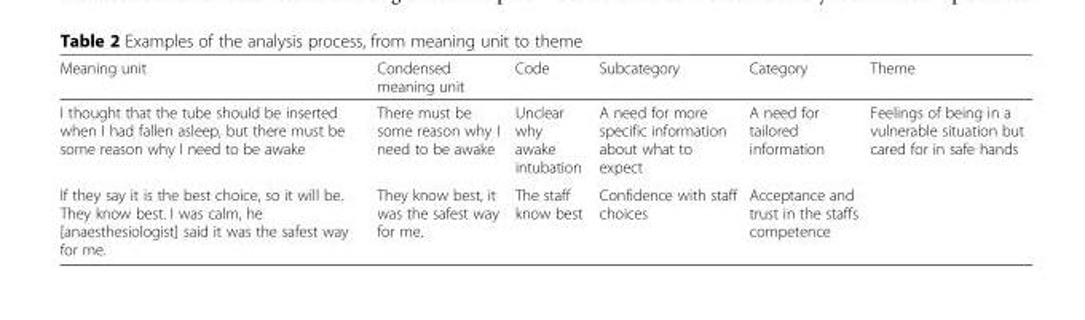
<table><thead><tr><td>Meaning unit</td><td>Condensed meaning unit</td><td>Code</td><td>Subcategory</td><td>Category</td><td>Theme</td></tr></thead><tbody><tr><td>I thought that the tube should be inserted when I had fallen asleep, but there must be some reason why I need to be awake</td><td>There must be some reason why I need to be awake</td><td>Unclear why awake intubation</td><td>A need for more specific information about what to expect</td><td>A need for tailored information</td><td rowspan="2">Feelings of being in a vulnerable situation but cared for in safe hands</td></tr><tr><td>If they say it is the best choice, so it will be. They know best. I was calm, he [anaesthesiologist] said it was the safest way for me.</td><td>They know best, it was the safest way for me.</td><td>The staff know best</td><td>Confidence with staff choices</td><td>Acceptance and trust in the staffs competence</td></tr></tbody></table>